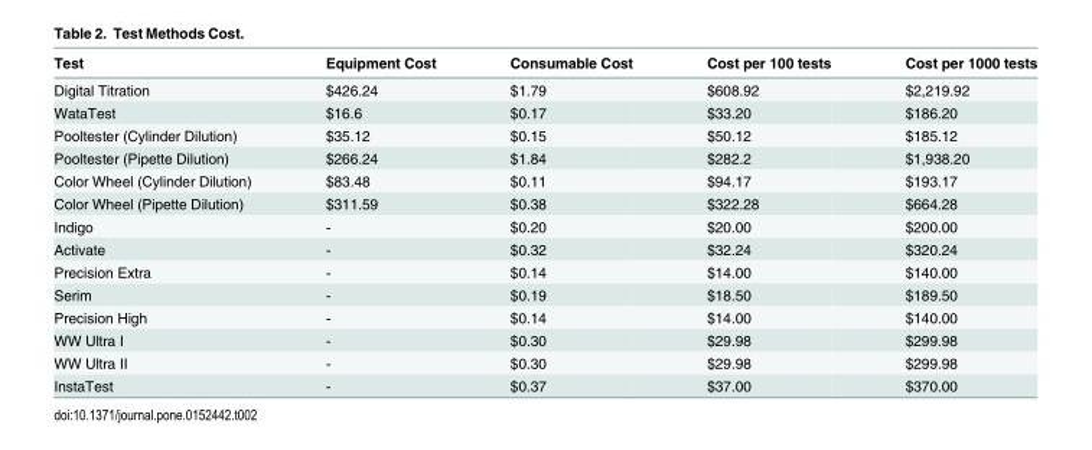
<table><thead><tr><td>Test</td><td>Equipment Cost</td><td>Consumable Cost</td><td>Cost per 100 tests</td><td>Cost per 1000 tests</td></tr></thead><tbody><tr><td>Digital Titration</td><td>$426.24</td><td>$1.79</td><td>$608.92</td><td>$2,219.92</td></tr><tr><td>WataTest</td><td>$16.6</td><td>$0.17</td><td>$33.20</td><td>$186.20</td></tr><tr><td>Pooltester (Cylinder Dilution)</td><td>$35.12</td><td>$0.15</td><td>$50.12</td><td>$185.12</td></tr><tr><td>Pooltester (Pipette Dilution)</td><td>$266.24</td><td>$1.84</td><td>$282.2</td><td>$1,938.20</td></tr><tr><td>Color Wheel (Cylinder Dilution)</td><td>$83.48</td><td>$0.11</td><td>$94.17</td><td>$193.17</td></tr><tr><td>Color Wheel (Pipette Dilution)</td><td>$311.59</td><td>$0.38</td><td>$322.28</td><td>$664.28</td></tr><tr><td>Indigo</td><td>-</td><td>$0.20</td><td>$20.00</td><td>$200.00</td></tr><tr><td>Activate</td><td>-</td><td>$0.32</td><td>$32.24</td><td>$320.24</td></tr><tr><td>Precision Extra</td><td>-</td><td>$0.14</td><td>$14.00</td><td>$140.00</td></tr><tr><td>Serim</td><td>-</td><td>$0.19</td><td>$18.50</td><td>$189.50</td></tr><tr><td>Precision High</td><td>-</td><td>$0.14</td><td>$14.00</td><td>$140.00</td></tr><tr><td>WW Ultra I</td><td>-</td><td>$0.30</td><td>$29.98</td><td>$299.98</td></tr><tr><td>WW Ultra II</td><td>-</td><td>$0.30</td><td>$29.98</td><td>$299.98</td></tr><tr><td>InstaTest</td><td>-</td><td>$0.37</td><td>$37.00</td><td>$370.00</td></tr></tbody></table>